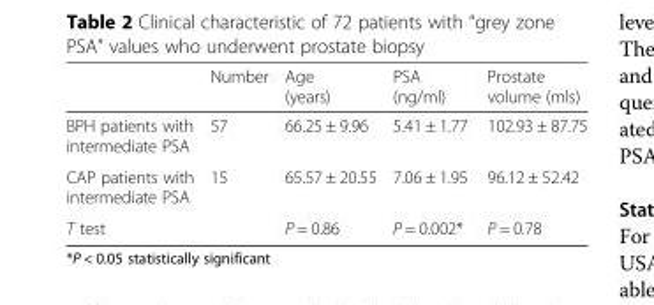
<table><thead><tr><td></td><td>Number</td><td>Age (years)</td><td>PSA (ng/ml)</td><td>Prostate volume (mls)</td></tr></thead><tbody><tr><td>BPH patients with intermediate PSA</td><td>57</td><td>66.25 ± 9.96</td><td>5.41 ± 1.77</td><td>102.93 ± 87.75</td></tr><tr><td>CAP patients with intermediate PSA</td><td>15</td><td>65.57 ± 20.55</td><td>7.06 ± 1.95</td><td>96.12 ± 52.42</td></tr><tr><td>T test</td><td></td><td>P = 0.86</td><td>P = 0.002*</td><td>P = 0.78</td></tr></tbody></table>